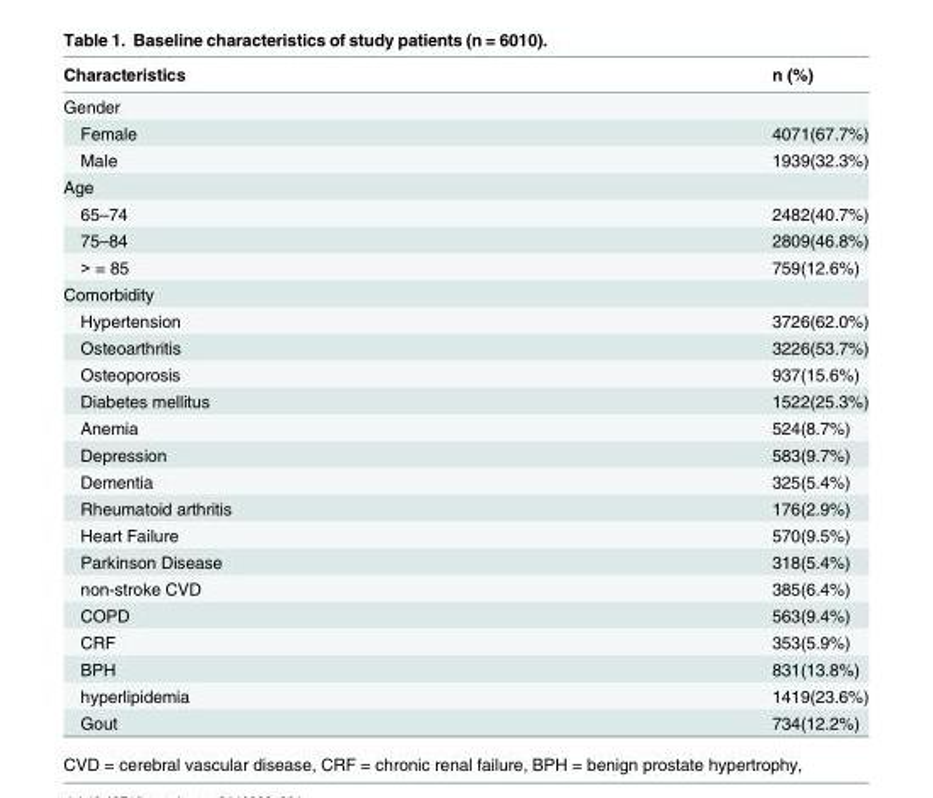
<table><thead><tr><td>Characteristics</td><td>n (%)</td></tr></thead><tbody><tr><td colspan="2">Gender</td></tr><tr><td>Female</td><td>4071(67.7%)</td></tr><tr><td>Male</td><td>1939(32.3%)</td></tr><tr><td colspan="2">Age</td></tr><tr><td>65–74</td><td>2482(40.7%)</td></tr><tr><td>75–84</td><td>2809(46.8%)</td></tr><tr><td>&gt; = 85</td><td>759(12.6%)</td></tr><tr><td colspan="2">Comorbidity</td></tr><tr><td>Hypertension</td><td>3726(62.0%)</td></tr><tr><td>Osteoarthritis</td><td>3226(53.7%)</td></tr><tr><td>Osteoporosis</td><td>937(15.6%)</td></tr><tr><td>Diabetes mellitus</td><td>1522(25.3%)</td></tr><tr><td>Anemia</td><td>524(8.7%)</td></tr><tr><td>Depression</td><td>583(9.7%)</td></tr><tr><td>Dementia</td><td>325(5.4%)</td></tr><tr><td>Rheumatoid arthritis</td><td>176(2.9%)</td></tr><tr><td>Heart Failure</td><td>570(9.5%)</td></tr><tr><td>Parkinson Disease</td><td>318(5.4%)</td></tr><tr><td>non-stroke CVD</td><td>385(6.4%)</td></tr><tr><td>COPD</td><td>563(9.4%)</td></tr><tr><td>CRF</td><td>353(5.9%)</td></tr><tr><td>BPH</td><td>831(13.8%)</td></tr><tr><td>hyperlipidemia</td><td>1419(23.6%)</td></tr><tr><td>Gout</td><td>734(12.2%)</td></tr></tbody></table>